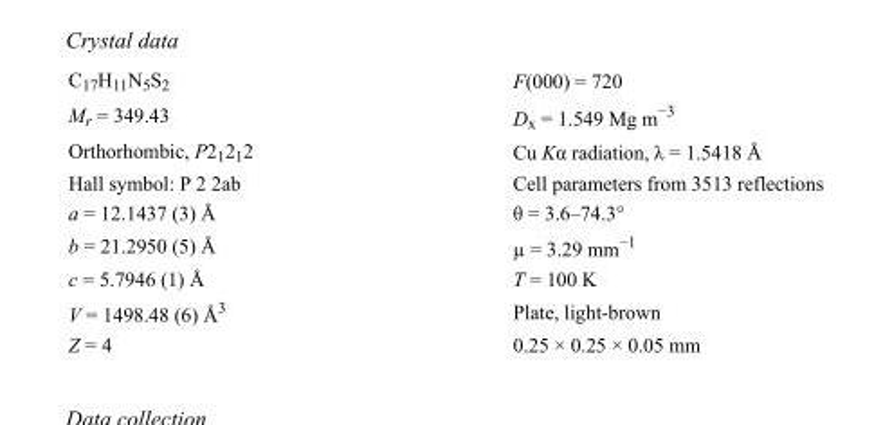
<table><tbody><tr><td>C<sub>17</sub>H<sub>11</sub>N<sub>5</sub>S<sub>2</sub></td><td>F(000) = 720</td></tr><tr><td>M<sub>r</sub> = 349.43</td><td>D<sub>x</sub> = 1.549 Mg m<sup>−3</sup></td></tr><tr><td>Orthorhombic, P2<sub>1</sub>2<sub>1</sub>2</td><td>Cu Kα radiation, λ = 1.5418 Å</td></tr><tr><td>Hall symbol: P 2 2ab</td><td>Cell parameters from 3513 reflections</td></tr><tr><td>a = 12.1437 (3) Å</td><td>θ = 3.6–74.3°</td></tr><tr><td>b = 21.2950 (5) Å</td><td>µ = 3.29 mm<sup>−1</sup></td></tr><tr><td>c = 5.7946 (1) Å</td><td>T = 100 K</td></tr><tr><td>V = 1498.48 (6) Å<sup>3</sup></td><td>Plate, light-brown</td></tr><tr><td>Z = 4</td><td>0.25 × 0.25 × 0.05 mm</td></tr></tbody></table>